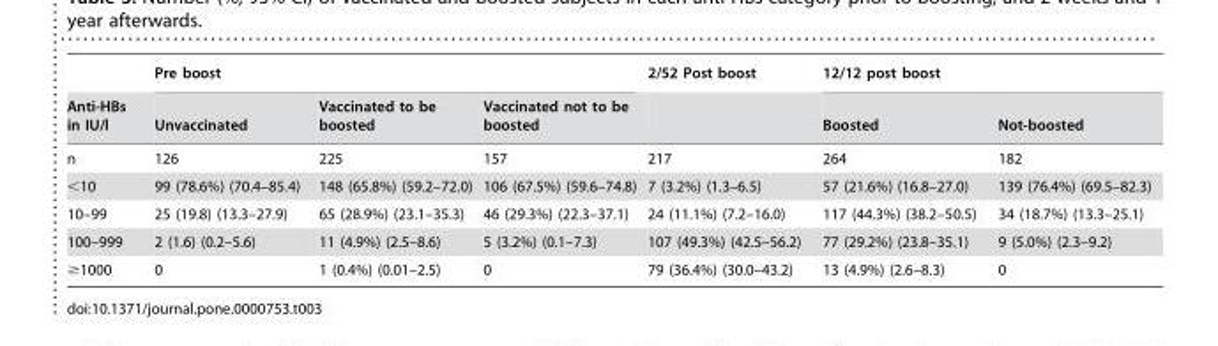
<table><thead><tr><td rowspan="2">Anti-HBs in IU/l</td><td colspan="3">Pre boost</td><td rowspan="2">2/52 Post boost</td><td colspan="2">12/12 post boost</td></tr><tr><td>Unvaccinated</td><td>Vaccinated to be boosted</td><td>Vaccinated not to be boosted</td><td>Boosted</td><td>Not-boosted</td></tr></thead><tbody><tr><td>n</td><td>126</td><td>225</td><td>157</td><td>217</td><td>264</td><td>182</td></tr><tr><td>&lt;10</td><td>99 (78.6%) (70.4–85.4)</td><td>148 (65.8%) (59.2–72.0)</td><td>106 (67.5%) (59.6–74.8)</td><td>7 (3.2%) (1.3–6.5)</td><td>57 (21.6%) (16.8–27.0)</td><td>139 (76.4%) (69.5–82.3)</td></tr><tr><td>10–99</td><td>25 (19.8) (13.3–27.9)</td><td>65 (28.9%) (23.1–35.3)</td><td>46 (29.3%) (22.3–37.1)</td><td>24 (11.1%) (7.2–16.0)</td><td>117 (44.3%) (38.2–50.5)</td><td>34 (18.7%) (13.3–25.1)</td></tr><tr><td>100–999</td><td>2 (1.6) (0.2–5.6)</td><td>11 (4.9%) (2.5–8.6)</td><td>5 (3.2%) (0.1–7.3)</td><td>107 (49.3%) (42.5–56.2)</td><td>77 (29.2%) (23.8–35.1)</td><td>9 (5.0%) (2.3–9.2)</td></tr><tr><td>≥1000</td><td>0</td><td>1 (0.4%) (0.01–2.5)</td><td>0</td><td>79 (36.4%) (30.0–43.2)</td><td>13 (4.9%) (2.6–8.3)</td><td>0</td></tr></tbody></table>